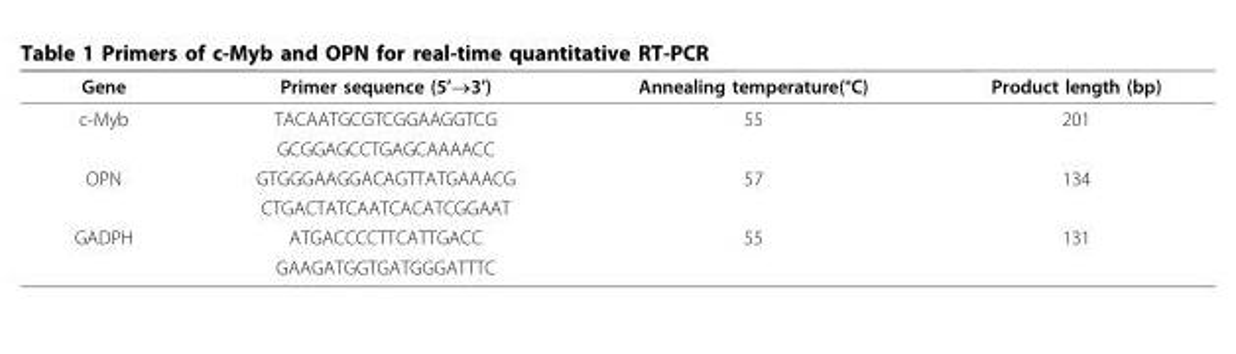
<table><thead><tr><td>Gene</td><td>Primer sequence (5’→3’)</td><td>Annealing temperature(°C)</td><td>Product length (bp)</td></tr></thead><tbody><tr><td rowspan="2">c-Myb</td><td>TACAATGCGTCGGAAGGTCG</td><td>55</td><td>201</td></tr><tr><td>GCGGAGCCTGAGCAAAACC</td><td></td><td></td></tr><tr><td rowspan="2">OPN</td><td>GTGGGAAGGACAGTTATGAAACG</td><td>57</td><td>134</td></tr><tr><td>CTGACTATCAATCACATCGGAAT</td><td></td><td></td></tr><tr><td rowspan="2">GADPH</td><td>ATGACCCCTTCATTGACC</td><td>55</td><td>131</td></tr><tr><td>GAAGATGGTGATGGGATTTC</td><td></td><td></td></tr></tbody></table>